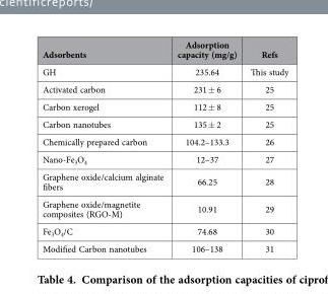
<table><thead><tr><td>Adsorbents</td><td>Adsorption capacity (mg/g)</td><td>Refs</td></tr></thead><tbody><tr><td>GH</td><td>235.64</td><td>This study</td></tr><tr><td>Activated carbon</td><td>231 ± 6</td><td>25</td></tr><tr><td>Carbon xerogel</td><td>112 ± 8</td><td>25</td></tr><tr><td>Carbon nanotubes</td><td>135 ± 2</td><td>25</td></tr><tr><td>Chemically prepared carbon</td><td>104.2–133.3</td><td>26</td></tr><tr><td>Nano-Fe<sub>3</sub>O<sub>4</sub></td><td>12–37</td><td>27</td></tr><tr><td>Graphene oxide/calcium alginate fibers</td><td>66.25</td><td>28</td></tr><tr><td>Graphene oxide/magnetite composites (RGO-M)</td><td>10.91</td><td>29</td></tr><tr><td>Fe<sub>3</sub>O<sub>4</sub>/C</td><td>74.68</td><td>30</td></tr><tr><td>Modified Carbon nanotubes</td><td>106–138</td><td>31</td></tr></tbody></table>